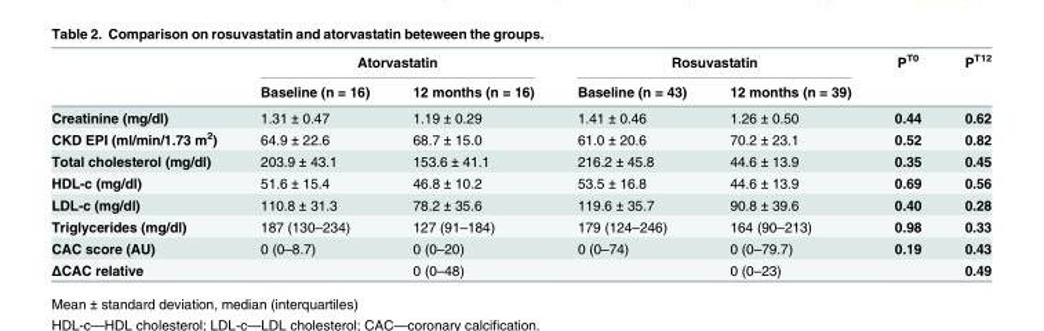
<table><thead><tr><td rowspan="2"></td><td colspan="2">Atorvastatin</td><td colspan="2">Rosuvastatin</td><td rowspan="2">P<sup>T0</sup></td><td rowspan="2">P<sup>T12</sup></td></tr><tr><td>Baseline (n = 16)</td><td>12 months (n = 16)</td><td>Baseline (n = 43)</td><td>12 months (n = 39)</td></tr></thead><tbody><tr><td>Creatinine (mg/dl)</td><td>1.31 ± 0.47</td><td>1.19 ± 0.29</td><td>1.41 ± 0.46</td><td>1.26 ± 0.50</td><td>0.44</td><td>0.62</td></tr><tr><td>CKD EPI (ml/min/1.73 m<sup>2</sup>)</td><td>64.9 ± 22.6</td><td>68.7 ± 15.0</td><td>61.0 ± 20.6</td><td>70.2 ± 23.1</td><td>0.52</td><td>0.82</td></tr><tr><td>Total cholesterol (mg/dl)</td><td>203.9 ± 43.1</td><td>153.6 ± 41.1</td><td>216.2 ± 45.8</td><td>44.6 ± 13.9</td><td>0.35</td><td>0.45</td></tr><tr><td>HDL-c (mg/dl)</td><td>51.6 ± 15.4</td><td>46.8 ± 10.2</td><td>53.5 ± 16.8</td><td>44.6 ± 13.9</td><td>0.69</td><td>0.56</td></tr><tr><td>LDL-c (mg/dl)</td><td>110.8 ± 31.3</td><td>78.2 ± 35.6</td><td>119.6 ± 35.7</td><td>90.8 ± 39.6</td><td>0.40</td><td>0.28</td></tr><tr><td>Triglycerides (mg/dl)</td><td>187 (130–234)</td><td>127 (91–184)</td><td>179 (124–246)</td><td>164 (90–213)</td><td>0.98</td><td>0.33</td></tr><tr><td>CAC score (AU)</td><td>0 (0–8.7)</td><td>0 (0–20)</td><td>0 (0–74)</td><td>0 (0–79.7)</td><td>0.19</td><td>0.43</td></tr><tr><td>ΔCAC relative</td><td></td><td>0 (0–48)</td><td></td><td>0 (0–23)</td><td></td><td>0.49</td></tr></tbody></table>